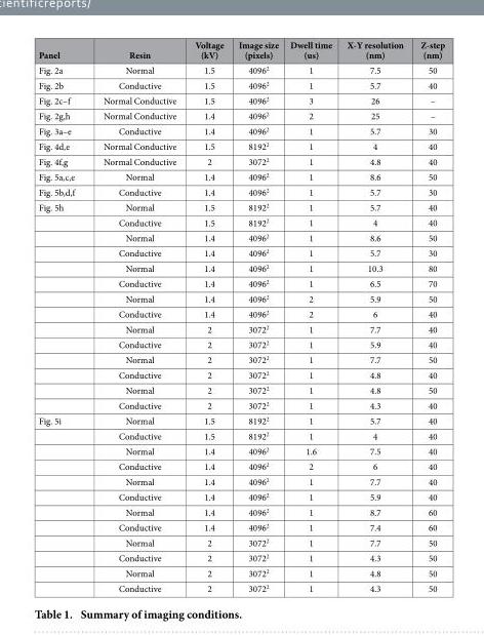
<table><thead><tr><td>Panel</td><td>Resin</td><td>Voltage (kV)</td><td>Image size (pixels)</td><td>Dwell time (us)</td><td>X-Y resolution (nm)</td><td>Z-step (nm)</td></tr></thead><tbody><tr><td>Fig. 2a</td><td>Normal</td><td>1.5</td><td>4096<sup>2</sup></td><td>1</td><td>7.5</td><td>50</td></tr><tr><td>Fig. 2b</td><td>Conductive</td><td>1.5</td><td>4096<sup>2</sup></td><td>1</td><td>5.7</td><td>40</td></tr><tr><td>Fig. 2c–f</td><td>Normal Conductive</td><td>1.5</td><td>4096<sup>2</sup></td><td>3</td><td>26</td><td>–</td></tr><tr><td>Fig. 2g,h</td><td>Normal Conductive</td><td>1.4</td><td>4096<sup>2</sup></td><td>2</td><td>25</td><td>–</td></tr><tr><td>Fig. 3a–e</td><td>Conductive</td><td>1.4</td><td>4096<sup>2</sup></td><td>1</td><td>5.7</td><td>30</td></tr><tr><td>Fig. 4d,e</td><td>Normal Conductive</td><td>1.5</td><td>8192<sup>2</sup></td><td>1</td><td>4</td><td>40</td></tr><tr><td>Fig. 4f,g</td><td>Normal Conductive</td><td>2</td><td>3072<sup>2</sup></td><td>1</td><td>4.8</td><td>40</td></tr><tr><td>Fig. 5a,c,e</td><td>Normal</td><td>1.4</td><td>4096<sup>2</sup></td><td>1</td><td>8.6</td><td>50</td></tr><tr><td>Fig. 5b,d,f</td><td>Conductive</td><td>1.4</td><td>4096<sup>2</sup></td><td>1</td><td>5.7</td><td>30</td></tr><tr><td rowspan="14">Fig. 5h</td><td>Normal</td><td>1.5</td><td>8192<sup>2</sup></td><td>1</td><td>5.7</td><td>40</td></tr><tr><td>Conductive</td><td>1.5</td><td>8192<sup>2</sup></td><td>1</td><td>4</td><td>40</td></tr><tr><td>Normal</td><td>1.4</td><td>4096<sup>2</sup></td><td>1</td><td>8.6</td><td>50</td></tr><tr><td>Conductive</td><td>1.4</td><td>4096<sup>2</sup></td><td>1</td><td>5.7</td><td>30</td></tr><tr><td>Normal</td><td>1.4</td><td>4096<sup>2</sup></td><td>1</td><td>10.3</td><td>80</td></tr><tr><td>Conductive</td><td>1.4</td><td>4096<sup>2</sup></td><td>1</td><td>6.5</td><td>70</td></tr><tr><td>Normal</td><td>1.4</td><td>4096<sup>2</sup></td><td>2</td><td>5.9</td><td>50</td></tr><tr><td>Conductive</td><td>1.4</td><td>4096<sup>2</sup></td><td>2</td><td>6</td><td>40</td></tr><tr><td>Normal</td><td>2</td><td>3072<sup>2</sup></td><td>1</td><td>7.7</td><td>40</td></tr><tr><td>Conductive</td><td>2</td><td>3072<sup>2</sup></td><td>1</td><td>5.9</td><td>40</td></tr><tr><td>Normal</td><td>2</td><td>3072<sup>2</sup></td><td>1</td><td>7.7</td><td>50</td></tr><tr><td>Conductive</td><td>2</td><td>3072<sup>2</sup></td><td>1</td><td>4.8</td><td>40</td></tr><tr><td>Normal</td><td>2</td><td>3072<sup>2</sup></td><td>1</td><td>4.8</td><td>50</td></tr><tr><td>Conductive</td><td>2</td><td>3072<sup>2</sup></td><td>1</td><td>4.3</td><td>40</td></tr><tr><td rowspan="12">Fig. 5i</td><td>Normal</td><td>1.5</td><td>8192<sup>2</sup></td><td>1</td><td>5.7</td><td>40</td></tr><tr><td>Conductive</td><td>1.5</td><td>8192<sup>2</sup></td><td>1</td><td>4</td><td>40</td></tr><tr><td>Normal</td><td>1.4</td><td>4096<sup>2</sup></td><td>1.6</td><td>7.5</td><td>40</td></tr><tr><td>Conductive</td><td>1.4</td><td>4096<sup>2</sup></td><td>2</td><td>6</td><td>40</td></tr><tr><td>Normal</td><td>1.4</td><td>4096<sup>2</sup></td><td>1</td><td>7.7</td><td>40</td></tr><tr><td>Conductive</td><td>1.4</td><td>4096<sup>2</sup></td><td>1</td><td>5.9</td><td>40</td></tr><tr><td>Normal</td><td>1.4</td><td>4096<sup>2</sup></td><td>1</td><td>8.7</td><td>60</td></tr><tr><td>Conductive</td><td>1.4</td><td>4096<sup>2</sup></td><td>1</td><td>7.4</td><td>60</td></tr><tr><td>Normal</td><td>2</td><td>3072<sup>2</sup></td><td>1</td><td>7.7</td><td>50</td></tr><tr><td>Conductive</td><td>2</td><td>3072<sup>2</sup></td><td>1</td><td>4.3</td><td>50</td></tr><tr><td>Normal</td><td>2</td><td>3072<sup>2</sup></td><td>1</td><td>4.8</td><td>50</td></tr><tr><td>Conductive</td><td>2</td><td>3072<sup>2</sup></td><td>1</td><td>4.3</td><td>50</td></tr></tbody></table>